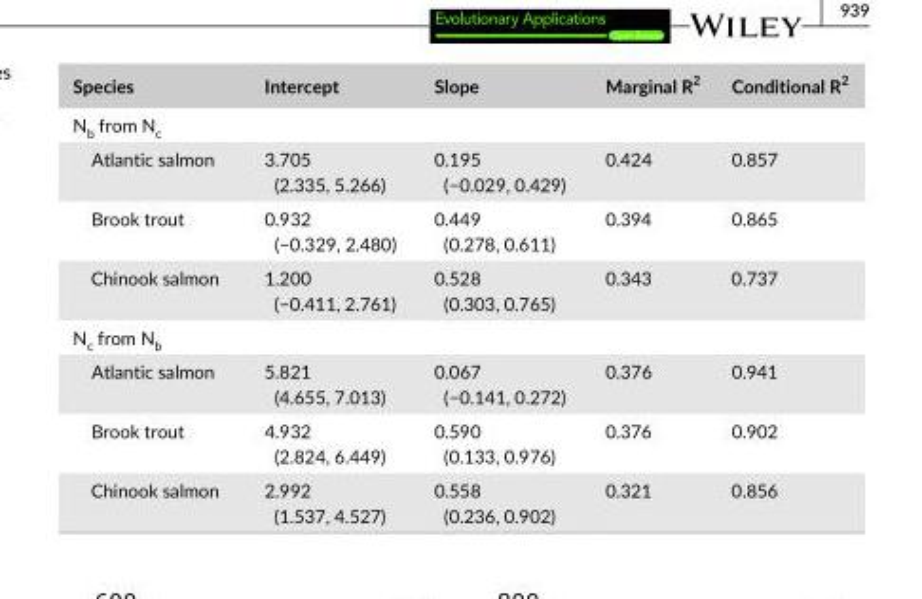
<table><thead><tr><td>Species</td><td>Intercept</td><td>Slope</td><td>Marginal R<sup>2</sup></td><td>Conditional R<sup>2</sup></td></tr></thead><tbody><tr><td colspan="5">N<sub>b</sub> from N<sub>c</sub></td></tr><tr><td>Atlantic salmon</td><td>3.705 (2.335, 5.266)</td><td>0.195 (−0.029, 0.429)</td><td>0.424</td><td>0.857</td></tr><tr><td>Brook trout</td><td>0.932 (−0.329, 2.480)</td><td>0.449 (0.278, 0.611)</td><td>0.394</td><td>0.865</td></tr><tr><td>Chinook salmon</td><td>1.200 (−0.411, 2.761)</td><td>0.528 (0.303, 0.765)</td><td>0.343</td><td>0.737</td></tr><tr><td colspan="5">N<sub>c</sub> from N<sub>b</sub></td></tr><tr><td>Atlantic salmon</td><td>5.821 (4.655, 7.013)</td><td>0.067 (−0.141, 0.272)</td><td>0.376</td><td>0.941</td></tr><tr><td>Brook trout</td><td>4.932 (2.824, 6.449)</td><td>0.590 (0.133, 0.976)</td><td>0.376</td><td>0.902</td></tr><tr><td>Chinook salmon</td><td>2.992 (1.537, 4.527)</td><td>0.558 (0.236, 0.902)</td><td>0.321</td><td>0.856</td></tr></tbody></table>